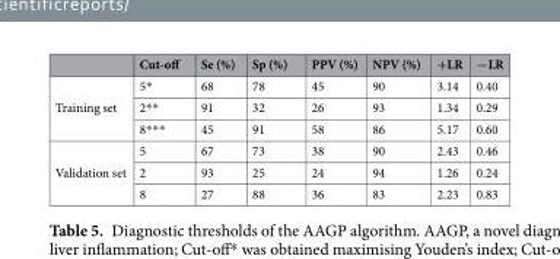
<table><thead><tr><td></td><td>Cut-off</td><td>Se (%)</td><td>Sp (%)</td><td>PPV (%)</td><td>NPV (%)</td><td>+LR</td><td>−LR</td></tr></thead><tbody><tr><td rowspan="3">Training set</td><td>5*</td><td>68</td><td>78</td><td>45</td><td>90</td><td>3.14</td><td>0.40</td></tr><tr><td>2**</td><td>91</td><td>32</td><td>26</td><td>93</td><td>1.34</td><td>0.29</td></tr><tr><td>8***</td><td>45</td><td>91</td><td>58</td><td>86</td><td>5.17</td><td>0.60</td></tr><tr><td rowspan="3">Validation set</td><td>5</td><td>67</td><td>73</td><td>38</td><td>90</td><td>2.43</td><td>0.46</td></tr><tr><td>2</td><td>93</td><td>25</td><td>24</td><td>94</td><td>1.26</td><td>0.24</td></tr><tr><td>8</td><td>27</td><td>88</td><td>36</td><td>83</td><td>2.23</td><td>0.83</td></tr></tbody></table>